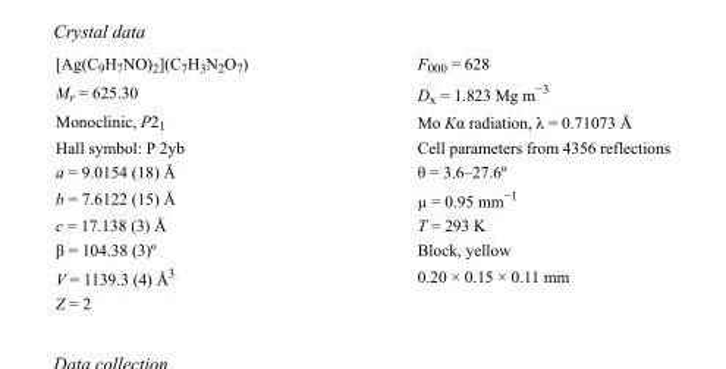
<table><tbody><tr><td>[Ag(C<sub>9</sub>H<sub>7</sub>NO)<sub>2</sub>](C<sub>7</sub>H<sub>3</sub>N<sub>2</sub>O<sub>7</sub>)</td><td>F000 = 628</td></tr><tr><td>M<sub>r</sub> = 625.30</td><td>D<sub>x</sub> = 1.823 Mg m<sup>−3</sup></td></tr><tr><td>Monoclinic, P2<sub>1</sub></td><td>Mo Kα radiation, λ = 0.71073 Å</td></tr><tr><td>Hall symbol: P 2yb</td><td>Cell parameters from 4356 reflections</td></tr><tr><td>a = 9.0154 (18) Å</td><td>θ = 3.6–27.6º</td></tr><tr><td>b = 7.6122 (15) Å</td><td>µ = 0.95 mm<sup>−1</sup></td></tr><tr><td>c = 17.138 (3) Å</td><td>T = 293 K</td></tr><tr><td>β = 104.38 (3)º</td><td>Block, yellow</td></tr><tr><td>V = 1139.3 (4) Å<sup>3</sup></td><td>0.20 × 0.15 × 0.11 mm</td></tr><tr><td>Z = 2</td><td></td></tr></tbody></table>